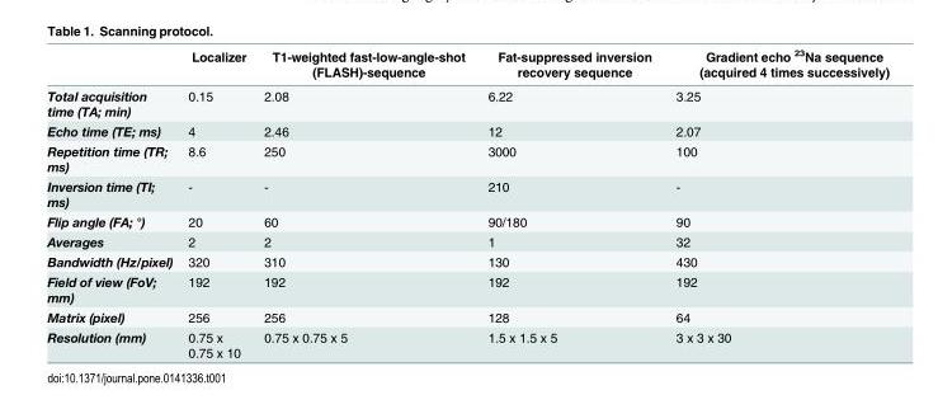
<table><thead><tr><td></td><td>Localizer</td><td>T1-weighted fast-low-angle-shot (FLASH)-sequence</td><td>Fat-suppressed inversion recovery sequence</td><td>Gradient echo <sup>23</sup>Na sequence (acquired 4 times successively)</td></tr></thead><tbody><tr><td>Total acquisition time (TA; min)</td><td>0.15</td><td>2.08</td><td>6.22</td><td>3.25</td></tr><tr><td>Echo time (TE; ms)</td><td>4</td><td>2.46</td><td>12</td><td>2.07</td></tr><tr><td>Repetition time (TR; ms)</td><td>8.6</td><td>250</td><td>3000</td><td>100</td></tr><tr><td>Inversion time (TI; ms)</td><td>-</td><td>-</td><td>210</td><td>-</td></tr><tr><td>Flip angle (FA; °)</td><td>20</td><td>60</td><td>90/180</td><td>90</td></tr><tr><td>Averages</td><td>2</td><td>2</td><td>1</td><td>32</td></tr><tr><td>Bandwidth (Hz/pixel)</td><td>320</td><td>310</td><td>130</td><td>430</td></tr><tr><td>Field of view (FoV; mm)</td><td>192</td><td>192</td><td>192</td><td>192</td></tr><tr><td>Matrix (pixel)</td><td>256</td><td>256</td><td>128</td><td>64</td></tr><tr><td>Resolution (mm)</td><td>0.75 x 0.75 x 10</td><td>0.75 x 0.75 x 5</td><td>1.5 x 1.5 x 5</td><td>3 x 3 x 30</td></tr></tbody></table>